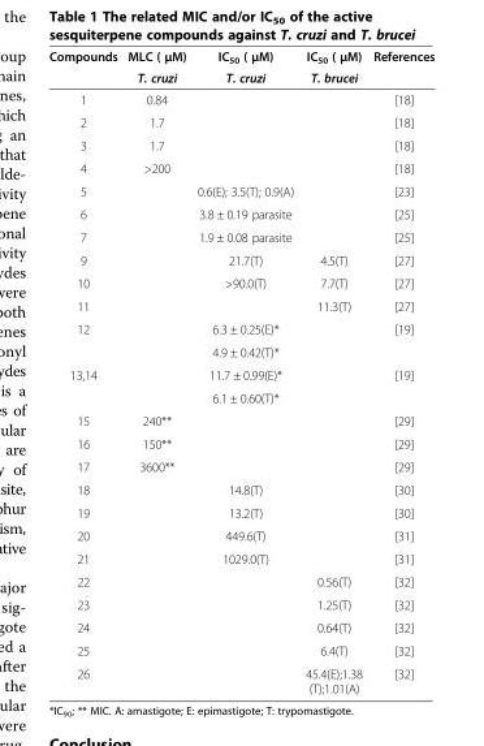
<table><thead><tr><td rowspan="2">Compounds</td><td rowspan="2">MLC ( μM) T. cruzi</td><td rowspan="2">IC<sub>50</sub> ( μM) T. cruzi</td><td rowspan="2">IC<sub>50</sub> ( μM) T. brucei</td><td rowspan="2">References</td></tr><tr></tr></thead><tbody><tr><td>1</td><td>0.84</td><td></td><td></td><td>[18]</td></tr><tr><td>2</td><td>1.7</td><td></td><td></td><td>[18]</td></tr><tr><td>3</td><td>1.7</td><td></td><td></td><td>[18]</td></tr><tr><td>4</td><td>&gt;200</td><td></td><td></td><td>[18]</td></tr><tr><td>5</td><td></td><td>0.6(E); 3.5(T); 0.9(A)</td><td></td><td>[23]</td></tr><tr><td>6</td><td></td><td>3.8 ± 0.19 parasite</td><td></td><td>[25]</td></tr><tr><td>7</td><td></td><td>1.9 ± 0.08 parasite</td><td></td><td>[25]</td></tr><tr><td>9</td><td></td><td>21.7(T)</td><td>4.5(T)</td><td>[27]</td></tr><tr><td>10</td><td></td><td>&gt;90.0(T)</td><td>7.7(T)</td><td>[27]</td></tr><tr><td>11</td><td></td><td></td><td>11.3(T)</td><td>[27]</td></tr><tr><td rowspan="2">12</td><td></td><td>6.3 ± 0.25(E)*</td><td></td><td>[19]</td></tr><tr><td></td><td>4.9 ± 0.42(T)*</td><td></td><td></td></tr><tr><td rowspan="2">13,14</td><td></td><td>11.7 ± 0.99(E)*</td><td></td><td>[19]</td></tr><tr><td></td><td>6.1 ± 0.60(T)*</td><td></td><td></td></tr><tr><td>15</td><td>240**</td><td></td><td></td><td>[29]</td></tr><tr><td>16</td><td>150**</td><td></td><td></td><td>[29]</td></tr><tr><td>17</td><td>3600**</td><td></td><td></td><td>[29]</td></tr><tr><td>18</td><td></td><td>14.8(T)</td><td></td><td>[30]</td></tr><tr><td>19</td><td></td><td>13.2(T)</td><td></td><td>[30]</td></tr><tr><td>20</td><td></td><td>449.6(T)</td><td></td><td>[31]</td></tr><tr><td>21</td><td></td><td>1029.0(T)</td><td></td><td>[31]</td></tr><tr><td>22</td><td></td><td></td><td>0.56(T)</td><td>[32]</td></tr><tr><td>23</td><td></td><td></td><td>1.25(T)</td><td>[32]</td></tr><tr><td>24</td><td></td><td></td><td>0.64(T)</td><td>[32]</td></tr><tr><td>25</td><td></td><td></td><td>6.4(T)</td><td>[32]</td></tr><tr><td>26</td><td></td><td></td><td>45.4(E);1.38 (T);1.01(A)</td><td>[32]</td></tr></tbody></table>